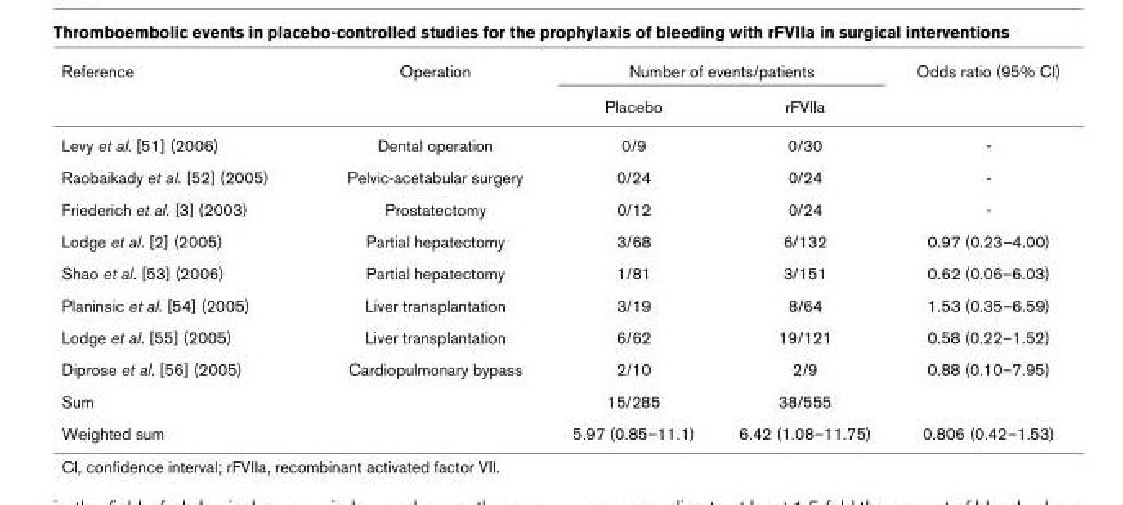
<table><thead><tr><td rowspan="2">Reference</td><td rowspan="2">Operation</td><td colspan="2">Number of events/patients</td><td rowspan="2">Odds ratio (95% CI)</td></tr><tr><td>Placebo</td><td>rFVIIa</td></tr></thead><tbody><tr><td>Levy et al. [51] (2006)</td><td>Dental operation</td><td>0/9</td><td>0/30</td><td>-</td></tr><tr><td>Raobaikady et al. [52] (2005)</td><td>Pelvic-acetabular surgery</td><td>0/24</td><td>0/24</td><td>-</td></tr><tr><td>Friederich et al. [3] (2003)</td><td>Prostatectomy</td><td>0/12</td><td>0/24</td><td>-</td></tr><tr><td>Lodge et al. [2] (2005)</td><td>Partial hepatectomy</td><td>3/68</td><td>6/132</td><td>0.97 (0.23–4.00)</td></tr><tr><td>Shao et al. [53] (2006)</td><td>Partial hepatectomy</td><td>1/81</td><td>3/151</td><td>0.62 (0.06–6.03)</td></tr><tr><td>Planinsic et al. [54] (2005)</td><td>Liver transplantation</td><td>3/19</td><td>8/64</td><td>1.53 (0.35–6.59)</td></tr><tr><td>Lodge et al. [55] (2005)</td><td>Liver transplantation</td><td>6/62</td><td>19/121</td><td>0.58 (0.22–1.52)</td></tr><tr><td>Diprose et al. [56] (2005)</td><td>Cardiopulmonary bypass</td><td>2/10</td><td>2/9</td><td>0.88 (0.10–7.95)</td></tr><tr><td>Sum</td><td></td><td>15/285</td><td>38/555</td><td></td></tr><tr><td>Weighted sum</td><td></td><td>5.97 (0.85–11.1)</td><td>6.42 (1.08–11.75)</td><td>0.806 (0.42–1.53)</td></tr></tbody></table>